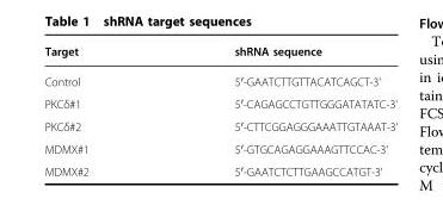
<table><thead><tr><td>Target</td><td>shRNA sequence</td></tr></thead><tbody><tr><td>Control</td><td>5′-GAATCTTGTTACATCAGCT-3&#x27;</td></tr><tr><td>PKCδ#1</td><td>5′-CAGAGCCTGTTGGGATATATC-3&#x27;</td></tr><tr><td>PKCδ#2</td><td>5′-CTTCGGAGGGAAATTGTAAAT-3&#x27;</td></tr><tr><td>MDMX#1</td><td>5′-GTGCAGAGGAAAGTTCCAC-3&#x27;</td></tr><tr><td>MDMX#2</td><td>5′-GAATCTCTTGAAGCCATGT-3&#x27;</td></tr></tbody></table>